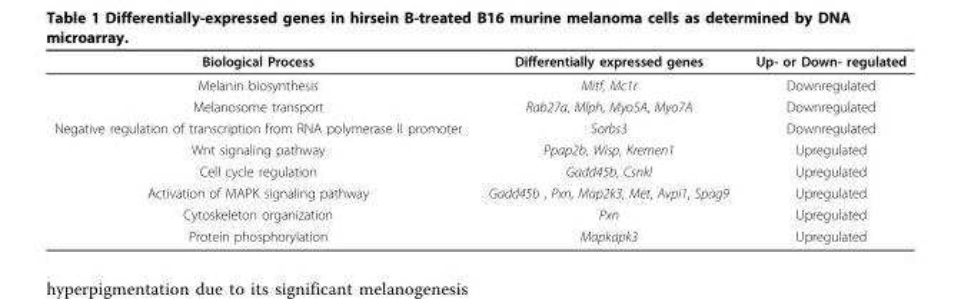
<table><thead><tr><td>Biological Process</td><td>Differentially expressed genes</td><td>Up- or Down- regulated</td></tr></thead><tbody><tr><td>Melanin biosynthesis</td><td>Mitf, Mc1r</td><td>Downregulated</td></tr><tr><td>Melanosome transport</td><td>Rab27a, Mlph, Myo5A, Myo7A</td><td>Downregulated</td></tr><tr><td>Negative regulation of transcription from RNA polymerase II promoter</td><td>Sorbs3</td><td>Downregulated</td></tr><tr><td>Wnt signaling pathway</td><td>Ppap2b, Wisp, Kremen1</td><td>Upregulated</td></tr><tr><td>Cell cycle regulation</td><td>Gadd45b, Csnkl</td><td>Upregulated</td></tr><tr><td>Activation of MAPK signaling pathway</td><td>Gadd45b , Pxn, Map2k3, Met, Avpi1, Spag9</td><td>Upregulated</td></tr><tr><td>Cytoskeleton organization</td><td>Pxn</td><td>Upregulated</td></tr><tr><td>Protein phosphorylation</td><td>Mapkapk3</td><td>Upregulated</td></tr></tbody></table>